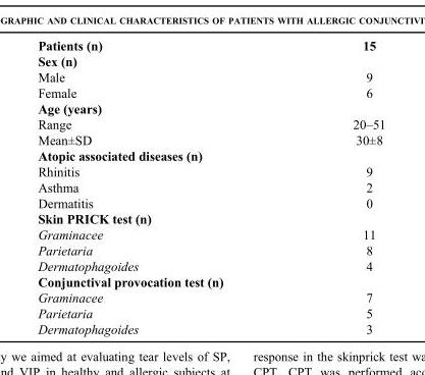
<table><thead><tr><td>Patients (n)</td><td>15</td></tr></thead><tbody><tr><td colspan="2">Sex (n)</td></tr><tr><td>Male</td><td>9</td></tr><tr><td>Female</td><td>6</td></tr><tr><td colspan="2">Age (years)</td></tr><tr><td>Range</td><td>20–51</td></tr><tr><td>Mean±SD</td><td>30±8</td></tr><tr><td colspan="2">Atopic associated diseases (n)</td></tr><tr><td>Rhinitis</td><td>9</td></tr><tr><td>Asthma</td><td>2</td></tr><tr><td>Dermatitis</td><td>0</td></tr><tr><td colspan="2">Skin PRICK test (n)</td></tr><tr><td>Graminacee</td><td>11</td></tr><tr><td>Parietaria</td><td>8</td></tr><tr><td>Dermatophagoides</td><td>4</td></tr><tr><td colspan="2">Conjunctival provocation test (n)</td></tr><tr><td>Graminacee</td><td>7</td></tr><tr><td>Parietaria</td><td>5</td></tr><tr><td>Dermatophagoides</td><td>3</td></tr></tbody></table>